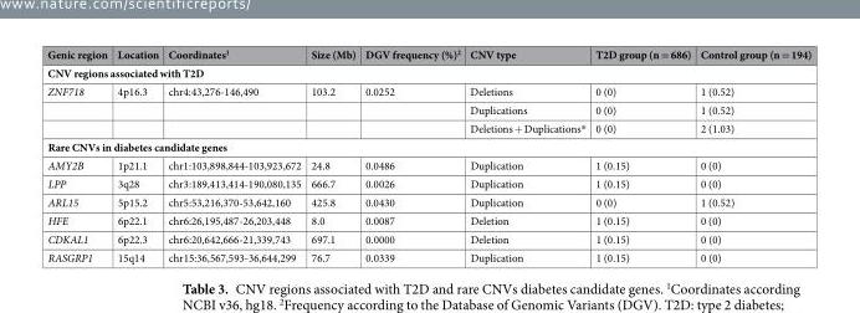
<table><thead><tr><td>Genic region</td><td>Location</td><td>Coordinates<sup>1</sup></td><td>Size (Mb)</td><td>DGV frequency (%)<sup>2</sup></td><td>CNV type</td><td>T2D group (n = 686)</td><td>Control group (n = 194)</td></tr></thead><tbody><tr><td colspan="8">CNV regions associated with T2D</td></tr><tr><td rowspan="3">ZNF718</td><td>4p16.3</td><td>chr4:43,276-146,490</td><td>103.2</td><td>0.0252</td><td>Deletions</td><td>0 (0)</td><td>1 (0.52)</td></tr><tr><td></td><td></td><td></td><td></td><td>Duplications</td><td>0 (0)</td><td>1 (0.52)</td></tr><tr><td></td><td></td><td></td><td></td><td>Deletions + Duplications*</td><td>0 (0)</td><td>2 (1.03)</td></tr><tr><td colspan="8">Rare CNVs in diabetes candidate genes</td></tr><tr><td>AMY2B</td><td>1p21.1</td><td>chr1:103,898,844-103,923,672</td><td>24.8</td><td>0.0486</td><td>Duplication</td><td>1 (0.15)</td><td>0 (0)</td></tr><tr><td>LPP</td><td>3q28</td><td>chr3:189,413,414-190,080,135</td><td>666.7</td><td>0.0026</td><td>Duplication</td><td>1 (0.15)</td><td>0 (0)</td></tr><tr><td>ARL15</td><td>5p15.2</td><td>chr5:53,216,370-53,642,160</td><td>425.8</td><td>0.0430</td><td>Duplication</td><td>0 (0)</td><td>1 (0.52)</td></tr><tr><td>HFE</td><td>6p22.1</td><td>chr6:26,195,487-26,203,448</td><td>8.0</td><td>0.0087</td><td>Deletion</td><td>1 (0.15)</td><td>0 (0)</td></tr><tr><td>CDKAL1</td><td>6p22.3</td><td>chr6:20,642,666-21,339,743</td><td>697.1</td><td>0.0000</td><td>Deletion</td><td>1 (0.15)</td><td>0 (0)</td></tr><tr><td>RASGRP1</td><td>15q14</td><td>chr15:36,567,593-36,644,299</td><td>76.7</td><td>0.0339</td><td>Duplication</td><td>1 (0.15)</td><td>0 (0)</td></tr></tbody></table>